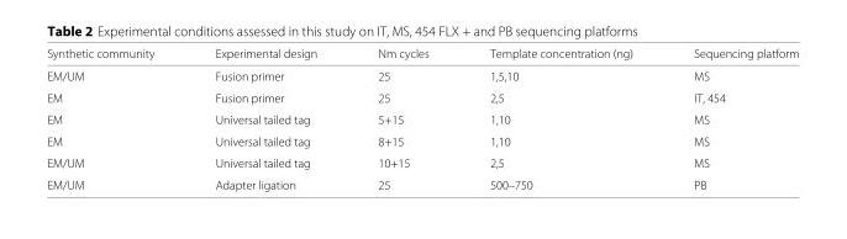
<table><thead><tr><td>Synthetic community</td><td>Experimental design</td><td>Nm cycles</td><td>Template concentration (ng)</td><td>Sequencing platform</td></tr></thead><tbody><tr><td>EM/UM</td><td>Fusion primer</td><td>25</td><td>1,5,10</td><td>MS</td></tr><tr><td>EM</td><td>Fusion primer</td><td>25</td><td>2,5</td><td>IT, 454</td></tr><tr><td>EM</td><td>Universal tailed tag</td><td>5+15</td><td>1,10</td><td>MS</td></tr><tr><td>EM</td><td>Universal tailed tag</td><td>8+15</td><td>1,10</td><td>MS</td></tr><tr><td>EM/UM</td><td>Universal tailed tag</td><td>10+15</td><td>2,5</td><td>MS</td></tr><tr><td>EM/UM</td><td>Adapter ligation</td><td>25</td><td>500–750</td><td>PB</td></tr></tbody></table>